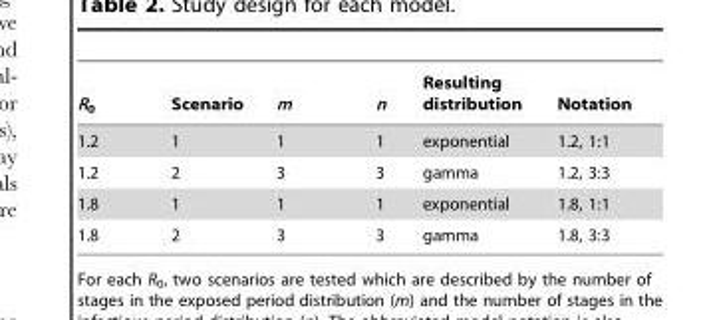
<table><thead><tr><td>R<sub>0</sub></td><td>Scenario</td><td>m</td><td>n</td><td>Resulting distribution</td><td>Notation</td></tr></thead><tbody><tr><td>1.2</td><td>1</td><td>1</td><td>1</td><td>exponential</td><td>1.2, 1:1</td></tr><tr><td>1.2</td><td>2</td><td>3</td><td>3</td><td>gamma</td><td>1.2, 3:3</td></tr><tr><td>1.8</td><td>1</td><td>1</td><td>1</td><td>exponential</td><td>1.8, 1:1</td></tr><tr><td>1.8</td><td>2</td><td>3</td><td>3</td><td>gamma</td><td>1.8, 3:3</td></tr></tbody></table>